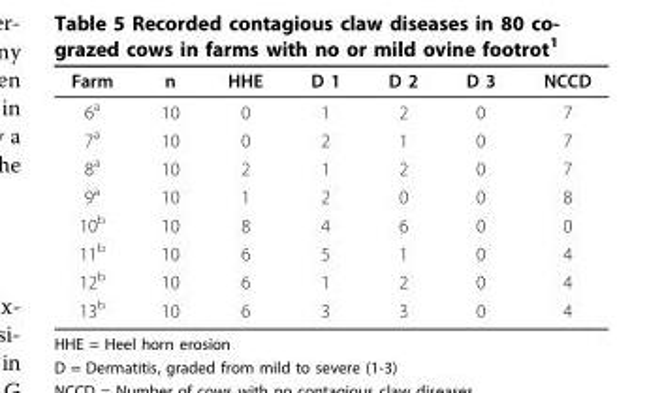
<table><thead><tr><td>Farm</td><td>n</td><td>HHE</td><td>D 1</td><td>D 2</td><td>D 3</td><td>NCCD</td></tr></thead><tbody><tr><td>6<sup>a</sup></td><td>10</td><td>0</td><td>1</td><td>2</td><td>0</td><td>7</td></tr><tr><td>7<sup>a</sup></td><td>10</td><td>0</td><td>2</td><td>1</td><td>0</td><td>7</td></tr><tr><td>8<sup>a</sup></td><td>10</td><td>2</td><td>1</td><td>2</td><td>0</td><td>7</td></tr><tr><td>9<sup>a</sup></td><td>10</td><td>1</td><td>2</td><td>0</td><td>0</td><td>8</td></tr><tr><td>10<sup>b</sup></td><td>10</td><td>8</td><td>4</td><td>6</td><td>0</td><td>0</td></tr><tr><td>11<sup>b</sup></td><td>10</td><td>6</td><td>5</td><td>1</td><td>0</td><td>4</td></tr><tr><td>12<sup>b</sup></td><td>10</td><td>6</td><td>1</td><td>2</td><td>0</td><td>4</td></tr><tr><td>13<sup>b</sup></td><td>10</td><td>6</td><td>3</td><td>3</td><td>0</td><td>4</td></tr></tbody></table>